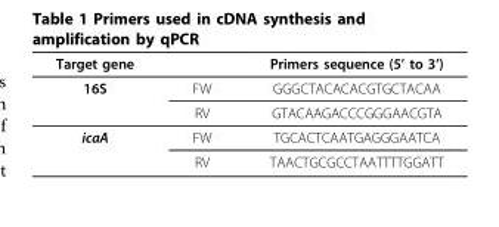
<table><thead><tr><td>Target gene</td><td></td><td>Primers sequence (5’ to 3’)</td></tr></thead><tbody><tr><td rowspan="2">16S</td><td>FW</td><td>GGGCTACACACGTGCTACAA</td></tr><tr><td>RV</td><td>GTACAAGACCCGGGAACGTA</td></tr><tr><td rowspan="2">icaA</td><td>FW</td><td>TGCACTCAATGAGGGAATCA</td></tr><tr><td>RV</td><td>TAACTGCGCCTAATTTTGGATT</td></tr></tbody></table>